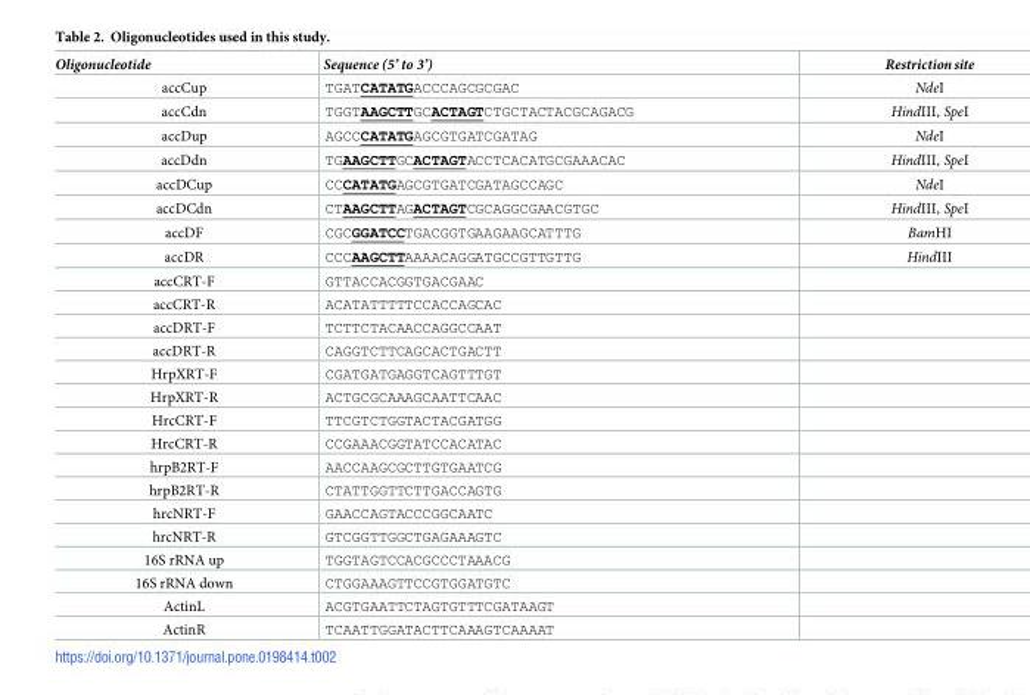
<table><thead><tr><td>Oligonucleotide</td><td>Sequence (5’ to 3’)</td><td>Restrictionsite</td></tr></thead><tbody><tr><td>accCup</td><td>TGATCATATGACCCAGCGCGAC</td><td>NdeI</td></tr><tr><td>accCdn</td><td>TGGTAAGCTTGCACTAGTCTGCTACTACGCAGACG</td><td>HindIII, SpeI</td></tr><tr><td>accDup</td><td>AGCCCATATGAGCGTGATCGATAG</td><td>NdeI</td></tr><tr><td>accDdn</td><td>TGAAGCTTGCACTAGTACCTCACATGCGAAACAC</td><td>HindIII, SpeI</td></tr><tr><td>accDCup</td><td>CCCATATGAGCGTGATCGATAGCCAGC</td><td>NdeI</td></tr><tr><td>accDCdn</td><td>CTAAGCTTAGACTAGTCGCAGGCGAACGTGC</td><td>HindIII, SpeI</td></tr><tr><td>accDF</td><td>CGCGGATCCTGACGGTGAAGAAGCATTTG</td><td>BamHI</td></tr><tr><td>accDR</td><td>CCCAAGCTTAAAACAGGATGCCGTTGTTG</td><td>HindIII</td></tr><tr><td>accCRT-F</td><td>GTTACCACGGTGACGAAC</td><td></td></tr><tr><td>accCRT-R</td><td>ACATATTTTTCCACCAGCAC</td><td></td></tr><tr><td>accDRT-F</td><td>TCTTCTACAACCAGGCCAAT</td><td></td></tr><tr><td>accDRT-R</td><td>CAGGTCTTCAGCACTGACTT</td><td></td></tr><tr><td>HrpXRT-F</td><td>CGATGATGAGGTCAGTTTGT</td><td></td></tr><tr><td>HrpXRT-R</td><td>ACTGCGCAAAGCAATTCAAC</td><td></td></tr><tr><td>HrcCRT-F</td><td>TTCGTCTGGTACTACGATGG</td><td></td></tr><tr><td>HrcCRT-R</td><td>CCGAAACGGTATCCACATAC</td><td></td></tr><tr><td>hrpB2RT-F</td><td>AACCAAGCGCTTGTGAATCG</td><td></td></tr><tr><td>hrpB2RT-R</td><td>CTATTGGTTCTTGACCAGTG</td><td></td></tr><tr><td>hrcNRT-F</td><td>GAACCAGTACCCGGCAATC</td><td></td></tr><tr><td>hrcNRT-R</td><td>GTCGGTTGGCTGAGAAAGTC</td><td></td></tr><tr><td>16S rRNA up</td><td>TGGTAGTCCACGCCCTAAACG</td><td></td></tr><tr><td>16S rRNA down</td><td>CTGGAAAGTTCCGTGGATGTC</td><td></td></tr><tr><td>ActinL</td><td>ACGTGAATTCTAGTGTTTCGATAAGT</td><td></td></tr><tr><td>ActinR</td><td>TCAATTGGATACTTCAAAGTCAAAAT</td><td></td></tr></tbody></table>